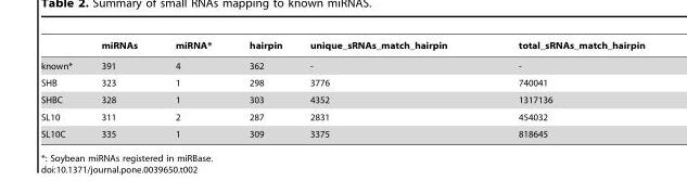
<table><thead><tr><td></td><td>miRNAs</td><td>miRNA*</td><td>hairpin</td><td>unique_sRNAs_match_hairpin</td><td>total_sRNAs_match_hairpin</td></tr></thead><tbody><tr><td>known*</td><td>391</td><td>4</td><td>362</td><td>-</td><td>-</td></tr><tr><td>SHB</td><td>323</td><td>1</td><td>298</td><td>3776</td><td>740041</td></tr><tr><td>SHBC</td><td>328</td><td>1</td><td>303</td><td>4352</td><td>1317136</td></tr><tr><td>SL10</td><td>311</td><td>2</td><td>287</td><td>2831</td><td>454032</td></tr><tr><td>SL10C</td><td>335</td><td>1</td><td>309</td><td>3375</td><td>818645</td></tr></tbody></table>